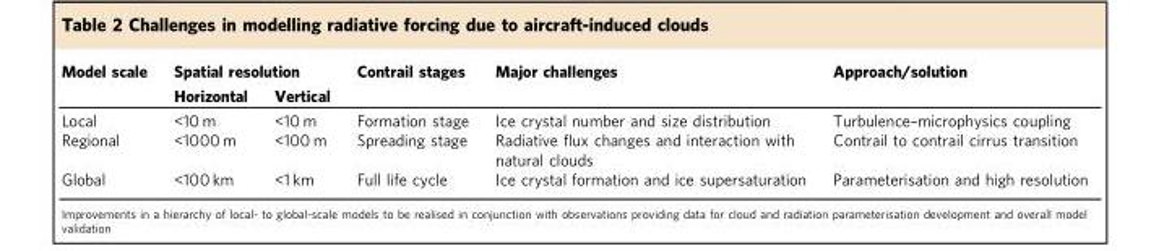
<table><thead><tr><td rowspan="2">Model scale</td><td colspan="2">Spatial resolution</td><td rowspan="2">Contrail stages</td><td rowspan="2">Major challenges</td><td rowspan="2">Approach/solution</td></tr><tr><td>Horizontal</td><td>Vertical</td></tr></thead><tbody><tr><td>Local</td><td>&lt;10 m</td><td>&lt;10 m</td><td>Formation stage</td><td>Ice crystal number and size distribution</td><td>Turbulence–microphysics coupling</td></tr><tr><td>Regional</td><td>&lt;1000 m</td><td>&lt;100 m</td><td>Spreading stage</td><td>Radiative flux changes and interaction with natural clouds</td><td>Contrail to contrail cirrus transition</td></tr><tr><td>Global</td><td>&lt;100 km</td><td>&lt;1 km</td><td>Full life cycle</td><td>Ice crystal formation and ice supersaturation</td><td>Parameterisation and high resolution</td></tr></tbody></table>